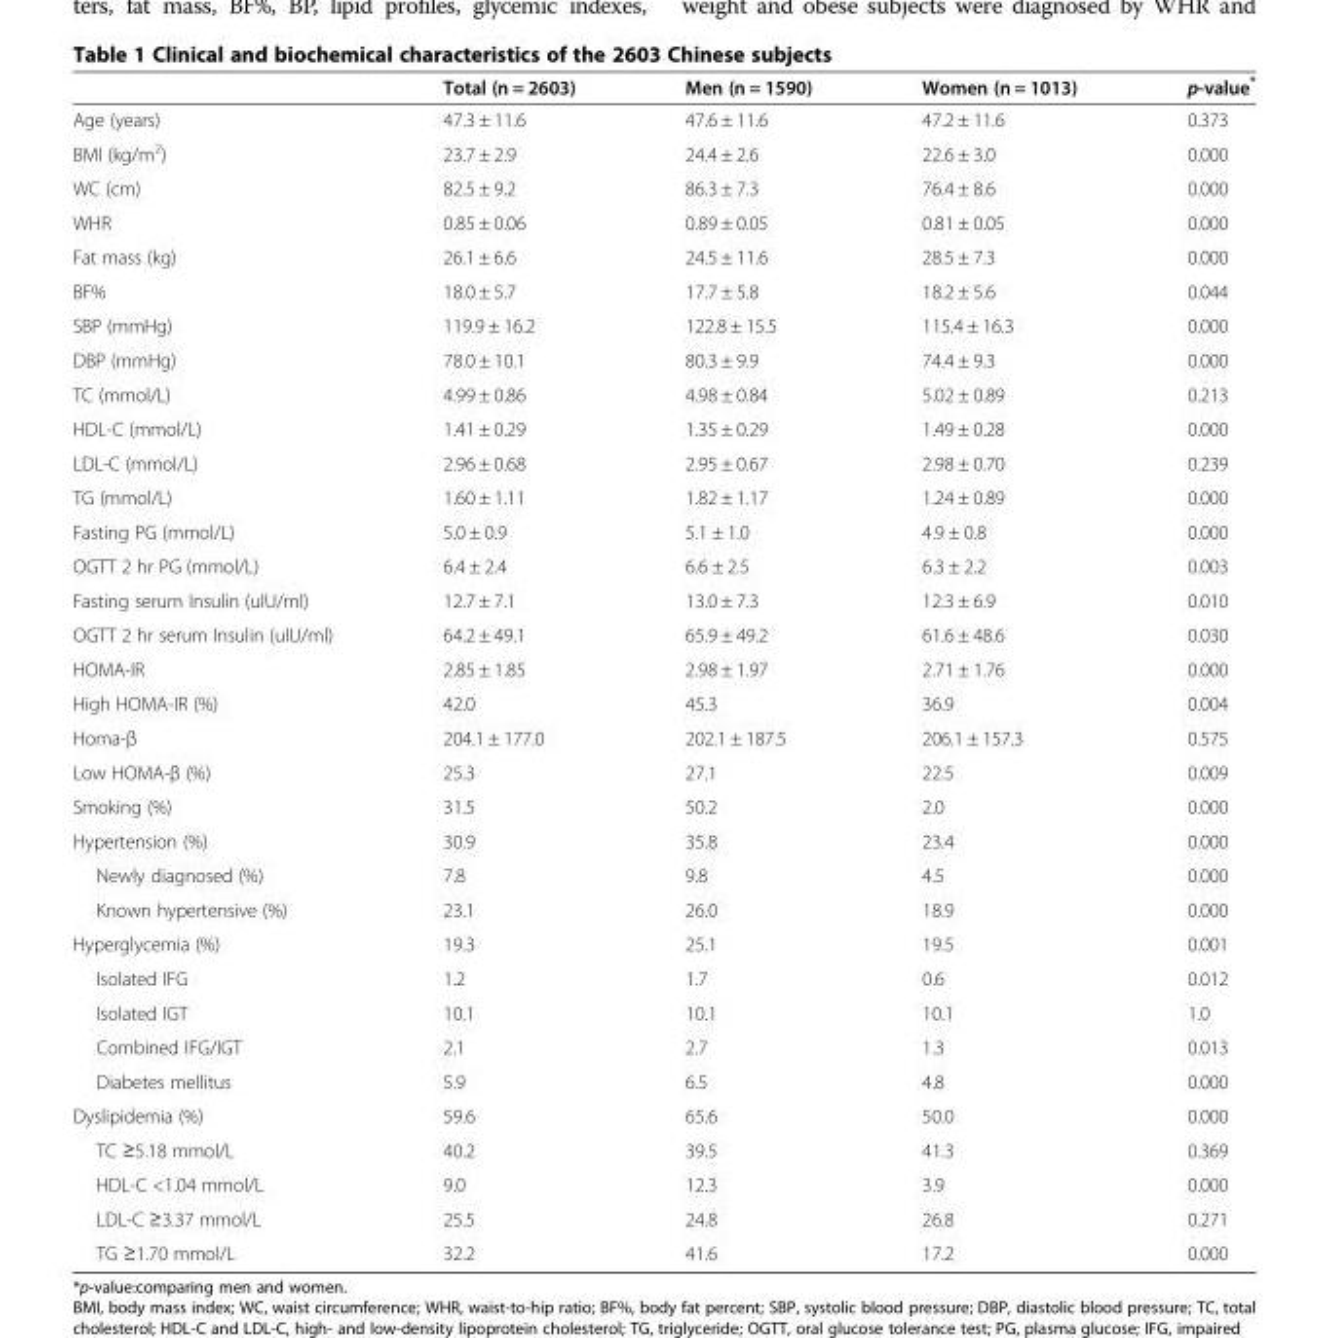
<table><thead><tr><td></td><td>Total (n = 2603)</td><td>Men (n = 1590)</td><td>Women (n = 1013)</td><td>p-value*</td></tr></thead><tbody><tr><td>Age (years)</td><td>47.3 ± 11.6</td><td>47.6 ± 11.6</td><td>47.2 ± 11.6</td><td>0.373</td></tr><tr><td>BMI (kg/m<sup>2</sup>)</td><td>23.7 ± 2.9</td><td>24.4 ± 2.6</td><td>22.6 ± 3.0</td><td>0.000</td></tr><tr><td>WC (cm)</td><td>82.5 ± 9.2</td><td>86.3 ± 7.3</td><td>76.4 ± 8.6</td><td>0.000</td></tr><tr><td>WHR</td><td>0.85 ± 0.06</td><td>0.89 ± 0.05</td><td>0.81 ± 0.05</td><td>0.000</td></tr><tr><td>Fat mass (kg)</td><td>26.1 ± 6.6</td><td>24.5 ± 11.6</td><td>28.5 ± 7.3</td><td>0.000</td></tr><tr><td>BF%</td><td>18.0 ± 5.7</td><td>17.7 ± 5.8</td><td>18.2 ± 5.6</td><td>0.044</td></tr><tr><td>SBP (mmHg)</td><td>119.9 ± 16.2</td><td>122.8 ± 15.5</td><td>115.4 ± 16.3</td><td>0.000</td></tr><tr><td>DBP (mmHg)</td><td>78.0 ± 10.1</td><td>80.3 ± 9.9</td><td>74.4 ± 9.3</td><td>0.000</td></tr><tr><td>TC (mmol/L)</td><td>4.99 ± 0.86</td><td>4.98 ± 0.84</td><td>5.02 ± 0.89</td><td>0.213</td></tr><tr><td>HDL-C (mmol/L)</td><td>1.41 ± 0.29</td><td>1.35 ± 0.29</td><td>1.49 ± 0.28</td><td>0.000</td></tr><tr><td>LDL-C (mmol/L)</td><td>2.96 ± 0.68</td><td>2.95 ± 0.67</td><td>2.98 ± 0.70</td><td>0.239</td></tr><tr><td>TG (mmol/L)</td><td>1.60 ± 1.11</td><td>1.82 ± 1.17</td><td>1.24 ± 0.89</td><td>0.000</td></tr><tr><td>Fasting PG (mmol/L)</td><td>5.0 ± 0.9</td><td>5.1 ± 1.0</td><td>4.9 ± 0.8</td><td>0.000</td></tr><tr><td>OGTT 2 hr PG (mmol/L)</td><td>6.4 ± 2.4</td><td>6.6 ± 2.5</td><td>6.3 ± 2.2</td><td>0.003</td></tr><tr><td>Fasting serum Insulin (uIU/ml)</td><td>12.7 ± 7.1</td><td>13.0 ± 7.3</td><td>12.3 ± 6.9</td><td>0.010</td></tr><tr><td>OGTT 2 hr serum Insulin (uIU/ml)</td><td>64.2 ± 49.1</td><td>65.9 ± 49.2</td><td>61.6 ± 48.6</td><td>0.030</td></tr><tr><td>HOMA-IR</td><td>2.85 ± 1.85</td><td>2.98 ± 1.97</td><td>2.71 ± 1.76</td><td>0.000</td></tr><tr><td>High HOMA-IR (%)</td><td>42.0</td><td>45.3</td><td>36.9</td><td>0.004</td></tr><tr><td>Homa-β</td><td>204.1 ± 177.0</td><td>202.1 ± 187.5</td><td>206.1 ± 157.3</td><td>0.575</td></tr><tr><td>Low HOMA-β (%)</td><td>25.3</td><td>27.1</td><td>22.5</td><td>0.009</td></tr><tr><td>Smoking (%)</td><td>31.5</td><td>50.2</td><td>2.0</td><td>0.000</td></tr><tr><td>Hypertension (%)</td><td>30.9</td><td>35.8</td><td>23.4</td><td>0.000</td></tr><tr><td>Newly diagnosed (%)</td><td>7.8</td><td>9.8</td><td>4.5</td><td>0.000</td></tr><tr><td>Known hypertensive (%)</td><td>23.1</td><td>26.0</td><td>18.9</td><td>0.000</td></tr><tr><td>Hyperglycemia (%)</td><td>19.3</td><td>25.1</td><td>19.5</td><td>0.001</td></tr><tr><td>Isolated IFG</td><td>1.2</td><td>1.7</td><td>0.6</td><td>0.012</td></tr><tr><td>Isolated IGT</td><td>10.1</td><td>10.1</td><td>10.1</td><td>1.0</td></tr><tr><td>Combined IFG/IGT</td><td>2.1</td><td>2.7</td><td>1.3</td><td>0.013</td></tr><tr><td>Diabetes mellitus</td><td>5.9</td><td>6.5</td><td>4.8</td><td>0.000</td></tr><tr><td>Dyslipidemia (%)</td><td>59.6</td><td>65.6</td><td>50.0</td><td>0.000</td></tr><tr><td>TC ≥5.18 mmol/L</td><td>40.2</td><td>39.5</td><td>41.3</td><td>0.369</td></tr><tr><td>HDL-C &lt;1.04 mmol/L</td><td>9.0</td><td>12.3</td><td>3.9</td><td>0.000</td></tr><tr><td>LDL-C ≥3.37 mmol/L</td><td>25.5</td><td>24.8</td><td>26.8</td><td>0.271</td></tr><tr><td>TG ≥1.70 mmol/L</td><td>32.2</td><td>41.6</td><td>17.2</td><td>0.000</td></tr></tbody></table>